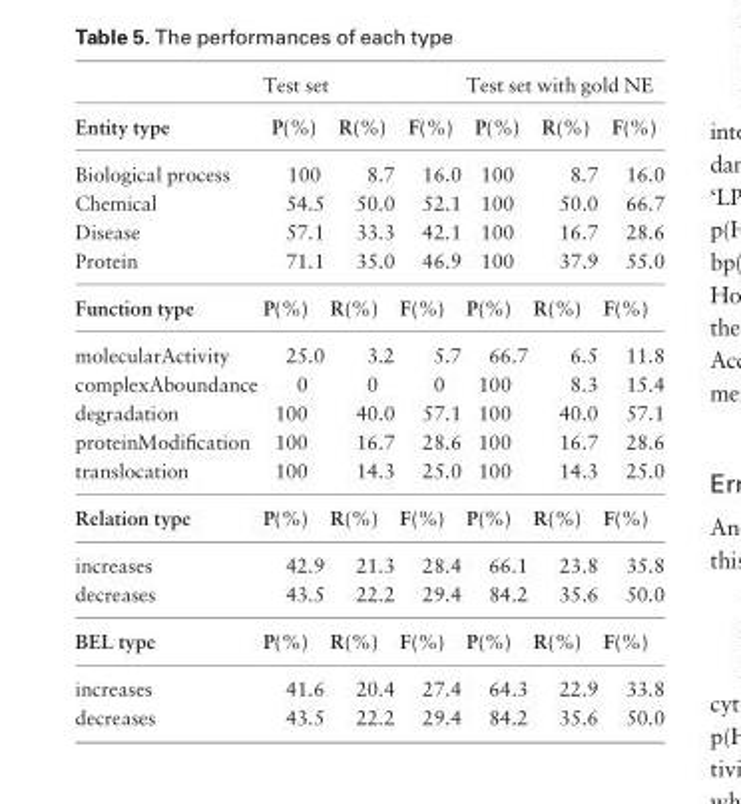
<table><thead><tr><td rowspan="2">Entity type</td><td colspan="3">Test set</td><td colspan="3">Test set with gold NE</td></tr><tr><td>P(%)</td><td>R(%)</td><td>F(%)</td><td>P(%)</td><td>R(%)</td><td>F(%)</td></tr></thead><tbody><tr><td>Biological process</td><td>100</td><td>8.7</td><td>16.0</td><td>100</td><td>8.7</td><td>16.0</td></tr><tr><td>Chemical</td><td>54.5</td><td>50.0</td><td>52.1</td><td>100</td><td>50.0</td><td>66.7</td></tr><tr><td>Disease</td><td>57.1</td><td>33.3</td><td>42.1</td><td>100</td><td>16.7</td><td>28.6</td></tr><tr><td>Protein</td><td>71.1</td><td>35.0</td><td>46.9</td><td>100</td><td>37.9</td><td>55.0</td></tr><tr><td>Function type</td><td>P(%)</td><td>R(%)</td><td>F(%)</td><td>P(%)</td><td>R(%)</td><td>F(%)</td></tr><tr><td>molecularActivity</td><td>25.0</td><td>3.2</td><td>5.7</td><td>66.7</td><td>6.5</td><td>11.8</td></tr><tr><td>complexAboundance</td><td>0</td><td>0</td><td>0</td><td>100</td><td>8.3</td><td>15.4</td></tr><tr><td>degradation</td><td>100</td><td>40.0</td><td>57.1</td><td>100</td><td>40.0</td><td>57.1</td></tr><tr><td>proteinModification</td><td>100</td><td>16.7</td><td>28.6</td><td>100</td><td>16.7</td><td>28.6</td></tr><tr><td>translocation</td><td>100</td><td>14.3</td><td>25.0</td><td>100</td><td>14.3</td><td>25.0</td></tr><tr><td>Relation type</td><td>P(%)</td><td>R(%)</td><td>F(%)</td><td>P(%)</td><td>R(%)</td><td>F(%)</td></tr><tr><td>increases</td><td>42.9</td><td>21.3</td><td>28.4</td><td>66.1</td><td>23.8</td><td>35.8</td></tr><tr><td>decreases</td><td>43.5</td><td>22.2</td><td>29.4</td><td>84.2</td><td>35.6</td><td>50.0</td></tr><tr><td>BEL type</td><td>P(%)</td><td>R(%)</td><td>F(%)</td><td>P(%)</td><td>R(%)</td><td>F(%)</td></tr><tr><td>increases</td><td>41.6</td><td>20.4</td><td>27.4</td><td>64.3</td><td>22.9</td><td>33.8</td></tr><tr><td>decreases</td><td>43.5</td><td>22.2</td><td>29.4</td><td>84.2</td><td>35.6</td><td>50.0</td></tr></tbody></table>